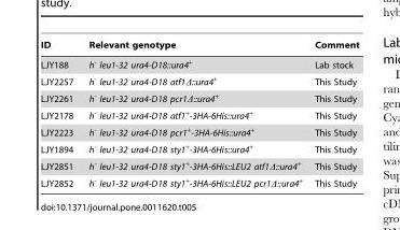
<table><thead><tr><td>ID</td><td>Relevant genotype</td><td>Comment</td></tr></thead><tbody><tr><td>LJY188</td><td>h<sup>-</sup> leu1-32 ura4-D18::ura4<sup>+</sup></td><td>Lab stock</td></tr><tr><td>LJY2257</td><td>h- leu1-32 ura4-D18 atf1D::ura4+</td><td>This Study</td></tr><tr><td>LJY2261</td><td>h- leu1-32 ura4-D18 pcr1D::ura4+</td><td>This Study</td></tr><tr><td>LJY2178</td><td>h<sup>-</sup> leu1-32 ura4-D18 atf1<sup>+</sup>-3HA-6His::ura4<sup>+</sup></td><td>This Study</td></tr><tr><td>LJY2223</td><td>h<sup>-</sup> leu1-32 ura4-D18 pcr1<sup>+</sup>-3HA-6His::ura4<sup>+</sup></td><td>This Study</td></tr><tr><td>LJY1894</td><td>h<sup>-</sup> leu1-32 ura4-D18 sty1<sup>+</sup>-3HA-6His::ura4<sup>+</sup></td><td>This Study</td></tr><tr><td>LJY2851</td><td>h- leu1-32 ura4-D18 sty1+-3HA-6His::LEU2 atf1D::ura4+</td><td>This Study</td></tr><tr><td>LJY2852</td><td>h- leu1-32 ura4-D18 sty1+-3HA-6His::LEU2 pcr1D::ura4+</td><td>This Study</td></tr></tbody></table>